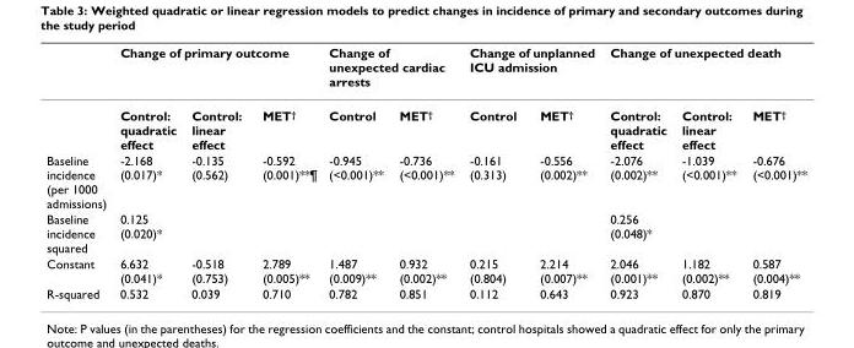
<table><thead><tr><td rowspan="2"></td><td colspan="3">Change of primary outcome</td><td colspan="2">Change of unexpected cardiac arrests</td><td colspan="2">Change of unplanned ICU admission</td><td colspan="3">Change of unexpected death</td></tr><tr><td>Control: quadratic effect</td><td>Control: linear effect</td><td>MET<sup>†</sup></td><td>Control</td><td>MET<sup>†</sup></td><td>Control</td><td>MET<sup>†</sup></td><td>Control: quadratic effect</td><td>Control: linear effect</td><td>MET<sup>†</sup></td></tr></thead><tbody><tr><td>Baseline incidence (per 1000 admissions)</td><td>-2.168 (0.017)*</td><td>-0.135 (0.562)</td><td>-0.592 (0.001)**¶</td><td>-0.945 (&lt;0.001)**</td><td>-0.736 (&lt;0.001)**</td><td>-0.161 (0.313)</td><td>-0.556 (0.002)**</td><td>-2.076 (0.002)**</td><td>-1.039 (&lt;0.001)**</td><td>-0.676 (&lt;0.001)**</td></tr><tr><td>Baseline incidence squared</td><td>0.125 (0.020)*</td><td></td><td></td><td></td><td></td><td></td><td></td><td>0.256 (0.048)*</td><td></td><td></td></tr><tr><td>Constant</td><td>6.632 (0.041)*</td><td>-0.518 (0.753)</td><td>2.789 (0.005)**</td><td>1.487 (0.009)**</td><td>0.932 (0.002)**</td><td>0.215 (0.804)</td><td>2.214 (0.007)**</td><td>2.046 (0.001)**</td><td>1.182 (0.002)**</td><td>0.587 (0.004)**</td></tr><tr><td>R-squared</td><td>0.532</td><td>0.039</td><td>0.710</td><td>0.782</td><td>0.851</td><td>0.112</td><td>0.643</td><td>0.923</td><td>0.870</td><td>0.819</td></tr></tbody></table>